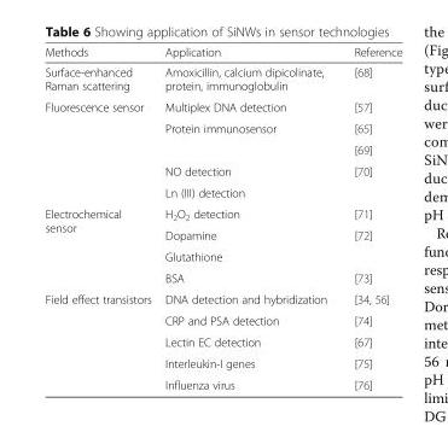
<table><thead><tr><td>Methods</td><td>Application</td><td>Reference</td></tr></thead><tbody><tr><td>Surface-enhanced Raman scattering</td><td>Amoxicillin, calcium dipicolinate, protein, immunoglobulin</td><td>[68]</td></tr><tr><td rowspan="5">Fluorescence sensor</td><td>Multiplex DNA detection</td><td>[57]</td></tr><tr><td rowspan="2">Protein immunosensor</td><td>[65]</td></tr><tr><td>[69]</td></tr><tr><td>NO detection</td><td rowspan="2">[70]</td></tr><tr><td>Ln (III) detection</td></tr><tr><td rowspan="4">Electrochemical sensor</td><td>H<sub>2</sub>O<sub>2</sub> detection</td><td>[71]</td></tr><tr><td>Dopamine</td><td rowspan="2">[72]</td></tr><tr><td>Glutathione</td></tr><tr><td>BSA</td><td>[73]</td></tr><tr><td rowspan="5">Field effect transistors</td><td>DNA detection and hybridization</td><td>[34, 56]</td></tr><tr><td>CRP and PSA detection</td><td>[74]</td></tr><tr><td>Lectin EC detection</td><td>[67]</td></tr><tr><td>Interleukin-I genes</td><td>[75]</td></tr><tr><td>Influenza virus</td><td>[76]</td></tr></tbody></table>